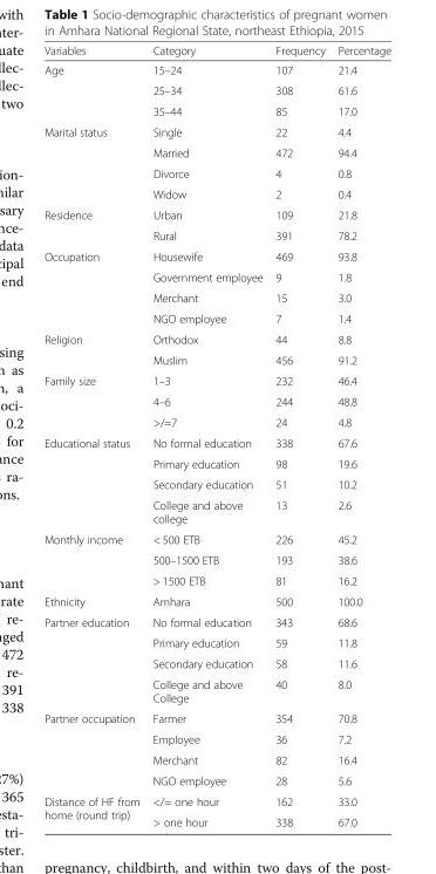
<table><thead><tr><td>Variables</td><td>Category</td><td>Frequency</td><td>Percentage</td></tr></thead><tbody><tr><td rowspan="3">Age</td><td>15–24</td><td>107</td><td>21.4</td></tr><tr><td>25–34</td><td>308</td><td>61.6</td></tr><tr><td>35–44</td><td>85</td><td>17.0</td></tr><tr><td rowspan="4">Marital status</td><td>Single</td><td>22</td><td>4.4</td></tr><tr><td>Married</td><td>472</td><td>94.4</td></tr><tr><td>Divorce</td><td>4</td><td>0.8</td></tr><tr><td>Widow</td><td>2</td><td>0.4</td></tr><tr><td rowspan="2">Residence</td><td>Urban</td><td>109</td><td>21.8</td></tr><tr><td>Rural</td><td>391</td><td>78.2</td></tr><tr><td rowspan="4">Occupation</td><td>Housewife</td><td>469</td><td>93.8</td></tr><tr><td>Government employee</td><td>9</td><td>1.8</td></tr><tr><td>Merchant</td><td>15</td><td>3.0</td></tr><tr><td>NGO employee</td><td>7</td><td>1.4</td></tr><tr><td rowspan="2">Religion</td><td>Orthodox</td><td>44</td><td>8.8</td></tr><tr><td>Muslim</td><td>456</td><td>91.2</td></tr><tr><td rowspan="3">Family size</td><td>1–3</td><td>232</td><td>46.4</td></tr><tr><td>4–6</td><td>244</td><td>48.8</td></tr><tr><td>&gt;/=7</td><td>24</td><td>4.8</td></tr><tr><td rowspan="4">Educational status</td><td>No formal education</td><td>338</td><td>67.6</td></tr><tr><td>Primary education</td><td>98</td><td>19.6</td></tr><tr><td>Secondary education</td><td>51</td><td>10.2</td></tr><tr><td>College and above college</td><td>13</td><td>2.6</td></tr><tr><td rowspan="3">Monthly income</td><td>&lt; 500 ETB</td><td>226</td><td>45.2</td></tr><tr><td>500–1500 ETB</td><td>193</td><td>38.6</td></tr><tr><td>&gt; 1500 ETB</td><td>81</td><td>16.2</td></tr><tr><td>Ethnicity</td><td>Amhara</td><td>500</td><td>100.0</td></tr><tr><td rowspan="4">Partner education</td><td>No formal education</td><td>343</td><td>68.6</td></tr><tr><td>Primary education</td><td>59</td><td>11.8</td></tr><tr><td>Secondary education</td><td>58</td><td>11.6</td></tr><tr><td>College and above College</td><td>40</td><td>8.0</td></tr><tr><td rowspan="4">Partner occupation</td><td>Farmer</td><td>354</td><td>70.8</td></tr><tr><td>Employee</td><td>36</td><td>7.2</td></tr><tr><td>Merchant</td><td>82</td><td>16.4</td></tr><tr><td>NGO employee</td><td>28</td><td>5.6</td></tr><tr><td rowspan="2">Distance of HF from home (round trip)</td><td>&lt;/= one hour</td><td>162</td><td>33.0</td></tr><tr><td>&gt; one hour</td><td>338</td><td>67.0</td></tr></tbody></table>